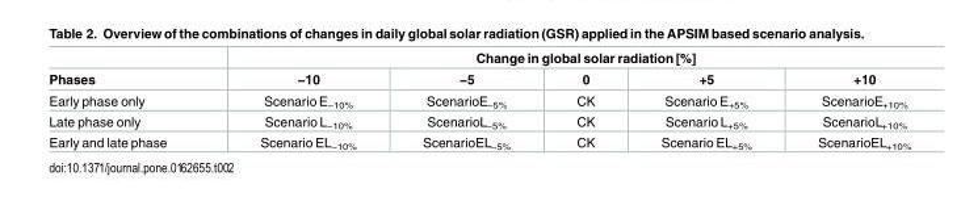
<table><thead><tr><td rowspan="2">Phases</td><td colspan="5">Change in global solar radiation [%]</td></tr><tr><td>−10</td><td>−5</td><td>0</td><td>+5</td><td>+10</td></tr></thead><tbody><tr><td>Early phase only</td><td>Scenario E<sub>−10%</sub></td><td>ScenarioE<sub>−5%</sub></td><td>CK</td><td>Scenario E<sub>+5%</sub></td><td>ScenarioE<sub>+10%</sub></td></tr><tr><td>Late phase only</td><td>Scenario L<sub>−10%</sub></td><td>ScenarioL<sub>−5%</sub></td><td>CK</td><td>Scenario L<sub>+5%</sub></td><td>ScenarioL<sub>+10%</sub></td></tr><tr><td>Early and late phase</td><td>Scenario EL<sub>−10%</sub></td><td>ScenarioEL<sub>−5%</sub></td><td>CK</td><td>Scenario EL<sub>+5%</sub></td><td>ScenarioEL<sub>+10%</sub></td></tr></tbody></table>